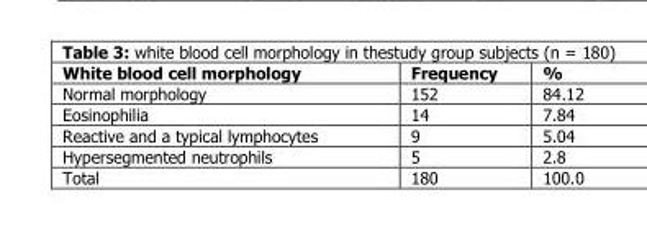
<table><thead><tr><td>White blood cell morphology</td><td>Frequency</td><td>%</td></tr></thead><tbody><tr><td>Normal morphology</td><td>152</td><td>84.12</td></tr><tr><td>Eosinophilia</td><td>14</td><td>7.84</td></tr><tr><td>Reactive and a typical lymphocytes</td><td>9</td><td>5.04</td></tr><tr><td>Hypersegmented neutrophils</td><td>5</td><td>2.8</td></tr><tr><td>Total</td><td>180</td><td>100.0</td></tr></tbody></table>